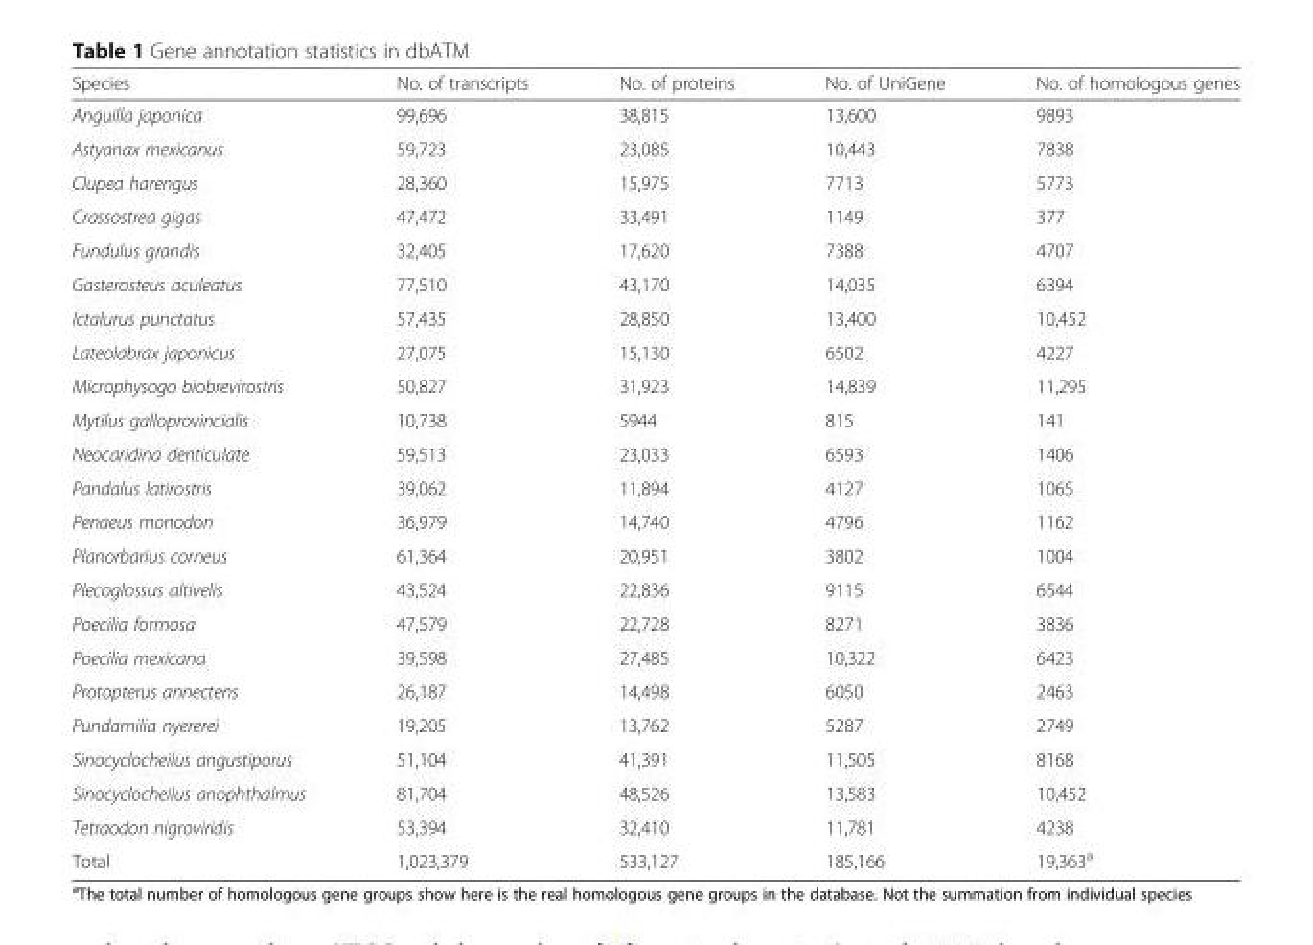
<table><thead><tr><td>Species</td><td>No. of transcripts</td><td>No. of proteins</td><td>No. of UniGene</td><td>No. of homologous genes</td></tr></thead><tbody><tr><td>Anguilla japonica</td><td>99,696</td><td>38,815</td><td>13,600</td><td>9893</td></tr><tr><td>Astyanax mexicanus</td><td>59,723</td><td>23,085</td><td>10,443</td><td>7838</td></tr><tr><td>Clupea harengus</td><td>28,360</td><td>15,975</td><td>7713</td><td>5773</td></tr><tr><td>Crassostrea gigas</td><td>47,472</td><td>33,491</td><td>1149</td><td>377</td></tr><tr><td>Fundulus grandis</td><td>32,405</td><td>17,620</td><td>7388</td><td>4707</td></tr><tr><td>Gasterosteus aculeatus</td><td>77,510</td><td>43,170</td><td>14,035</td><td>6394</td></tr><tr><td>Ictalurus punctatus</td><td>57,435</td><td>28,850</td><td>13,400</td><td>10,452</td></tr><tr><td>Lateolabrax japonicus</td><td>27,075</td><td>15,130</td><td>6502</td><td>4227</td></tr><tr><td>Microphysogo biobrevirostris</td><td>50,827</td><td>31,923</td><td>14,839</td><td>11,295</td></tr><tr><td>Mytilus galloprovincialis</td><td>10,738</td><td>5944</td><td>815</td><td>141</td></tr><tr><td>Neocaridina denticulate</td><td>59,513</td><td>23,033</td><td>6593</td><td>1406</td></tr><tr><td>Pandalus latirostris</td><td>39,062</td><td>11,894</td><td>4127</td><td>1065</td></tr><tr><td>Penaeus monodon</td><td>36,979</td><td>14,740</td><td>4796</td><td>1162</td></tr><tr><td>Planorbarius corneus</td><td>61,364</td><td>20,951</td><td>3802</td><td>1004</td></tr><tr><td>Plecoglossus altivelis</td><td>43,524</td><td>22,836</td><td>9115</td><td>6544</td></tr><tr><td>Poecilia formosa</td><td>47,579</td><td>22,728</td><td>8271</td><td>3836</td></tr><tr><td>Poecilia mexicana</td><td>39,598</td><td>27,485</td><td>10,322</td><td>6423</td></tr><tr><td>Protopterus annectens</td><td>26,187</td><td>14,498</td><td>6050</td><td>2463</td></tr><tr><td>Pundamilia nyererei</td><td>19,205</td><td>13,762</td><td>5287</td><td>2749</td></tr><tr><td>Sinocyclocheilus angustiporus</td><td>51,104</td><td>41,391</td><td>11,505</td><td>8168</td></tr><tr><td>Sinocyclocheilus anophthalmus</td><td>81,704</td><td>48,526</td><td>13,583</td><td>10,452</td></tr><tr><td>Tetraodon nigroviridis</td><td>53,394</td><td>32,410</td><td>11,781</td><td>4238</td></tr><tr><td>Total</td><td>1,023,379</td><td>533,127</td><td>185,166</td><td>19,363<sup>a</sup></td></tr></tbody></table>